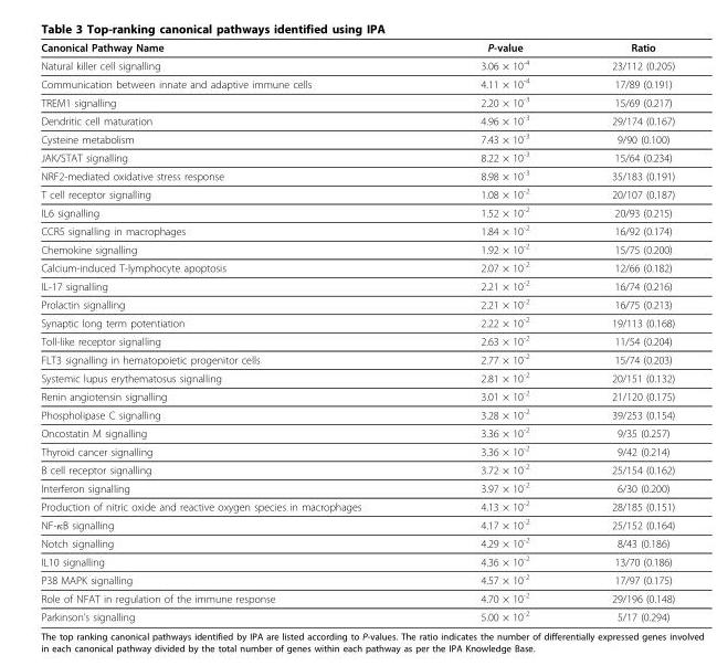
<table><thead><tr><td>Canonical Pathway Name</td><td>P-value</td><td>Ratio</td></tr></thead><tbody><tr><td>Natural killer cell signalling</td><td>3.06 × 10<sup>-4</sup></td><td>23/112 (0.205)</td></tr><tr><td>Communication between innate and adaptive immune cells</td><td>4.11 × 10<sup>-4</sup></td><td>17/89 (0.191)</td></tr><tr><td>TREM1 signalling</td><td>2.20 × 10<sup>-3</sup></td><td>15/69 (0.217)</td></tr><tr><td>Dendritic cell maturation</td><td>4.96 × 10<sup>-3</sup></td><td>29/174 (0.167)</td></tr><tr><td>Cysteine metabolism</td><td>7.43 × 10<sup>-3</sup></td><td>9/90 (0.100)</td></tr><tr><td>JAK/STAT signalling</td><td>8.22 × 10<sup>-3</sup></td><td>15/64 (0.234)</td></tr><tr><td>NRF2-mediated oxidative stress response</td><td>8.98 × 10<sup>-3</sup></td><td>35/183 (0.191)</td></tr><tr><td>T cell receptor signalling</td><td>1.08 × 10<sup>-2</sup></td><td>20/107 (0.187)</td></tr><tr><td>IL6 signalling</td><td>1.52 × 10<sup>-2</sup></td><td>20/93 (0.215)</td></tr><tr><td>CCR5 signalling in macrophages</td><td>1.84 × 10<sup>-2</sup></td><td>16/92 (0.174)</td></tr><tr><td>Chemokine signalling</td><td>1.92 × 10<sup>-2</sup></td><td>15/75 (0.200)</td></tr><tr><td>Calcium-induced T-lymphocyte apoptosis</td><td>2.07 × 10<sup>-2</sup></td><td>12/66 (0.182)</td></tr><tr><td>IL-17 signalling</td><td>2.21 × 10<sup>-2</sup></td><td>16/74 (0.216)</td></tr><tr><td>Prolactin signalling</td><td>2.21 × 10<sup>-2</sup></td><td>16/75 (0.213)</td></tr><tr><td>Synaptic long term potentiation</td><td>2.22 × 10<sup>-2</sup></td><td>19/113 (0.168)</td></tr><tr><td>Toll-like receptor signalling</td><td>2.63 × 10<sup>-2</sup></td><td>11/54 (0.204)</td></tr><tr><td>FLT3 signalling in hematopoietic progenitor cells</td><td>2.77 × 10<sup>-2</sup></td><td>15/74 (0.203)</td></tr><tr><td>Systemic lupus erythematosus signalling</td><td>2.81 × 10<sup>-2</sup></td><td>20/151 (0.132)</td></tr><tr><td>Renin angiotensin signalling</td><td>3.01 × 10<sup>-2</sup></td><td>21/120 (0.175)</td></tr><tr><td>Phospholipase C signalling</td><td>3.28 × 10<sup>-2</sup></td><td>39/253 (0.154)</td></tr><tr><td>Oncostatin M signalling</td><td>3.36 × 10<sup>-2</sup></td><td>9/35 (0.257)</td></tr><tr><td>Thyroid cancer signalling</td><td>3.36 × 10<sup>-2</sup></td><td>9/42 (0.214)</td></tr><tr><td>B cell receptor signalling</td><td>3.72 × 10<sup>-2</sup></td><td>25/154 (0.162)</td></tr><tr><td>Interferon signalling</td><td>3.97 × 10<sup>-2</sup></td><td>6/30 (0.200)</td></tr><tr><td>Production of nitric oxide and reactive oxygen species in macrophages</td><td>4.13 × 10<sup>-2</sup></td><td>28/185 (0.151)</td></tr><tr><td>NF-κB signalling</td><td>4.17 × 10<sup>-2</sup></td><td>25/152 (0.164)</td></tr><tr><td>Notch signalling</td><td>4.29 × 10<sup>-2</sup></td><td>8/43 (0.186)</td></tr><tr><td>IL10 signalling</td><td>4.36 × 10<sup>-2</sup></td><td>13/70 (0.186)</td></tr><tr><td>P38 MAPK signalling</td><td>4.57 × 10<sup>-2</sup></td><td>17/97 (0.175)</td></tr><tr><td>Role of NFAT in regulation of the immune response</td><td>4.70 × 10<sup>-2</sup></td><td>29/196 (0.148)</td></tr><tr><td>Parkinson’s signalling</td><td>5.00 × 10<sup>-2</sup></td><td>5/17 (0.294)</td></tr></tbody></table>